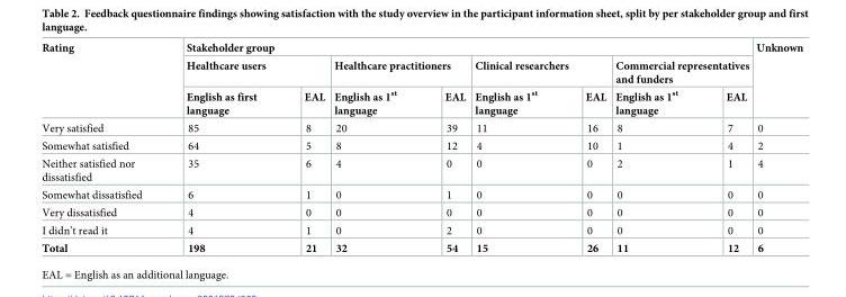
<table><thead><tr><td rowspan="3">Rating</td><td colspan="8">Stakeholder group</td><td rowspan="3">Unknown</td></tr><tr><td colspan="2">Healthcare users</td><td colspan="2">Healthcare practitioners</td><td colspan="2">Clinical researchers</td><td colspan="2">Commercial representatives and funders</td></tr><tr><td>English as first language</td><td>EAL</td><td>English as 1<sup>st</sup> language</td><td>EAL</td><td>English as 1<sup>st</sup> language</td><td>EAL</td><td>English as 1<sup>st</sup> language</td><td>EAL</td></tr></thead><tbody><tr><td>Very satisfied</td><td>85</td><td>8</td><td>20</td><td>39</td><td>11</td><td>16</td><td>8</td><td>7</td><td>0</td></tr><tr><td>Somewhat satisfied</td><td>64</td><td>5</td><td>8</td><td>12</td><td>4</td><td>10</td><td>1</td><td>4</td><td>2</td></tr><tr><td>Neither satisfied nor dissatisfied</td><td>35</td><td>6</td><td>4</td><td>0</td><td>0</td><td>0</td><td>2</td><td>1</td><td>4</td></tr><tr><td>Somewhat dissatisfied</td><td>6</td><td>1</td><td>0</td><td>1</td><td>0</td><td>0</td><td>0</td><td>0</td><td>0</td></tr><tr><td>Very dissatisfied</td><td>4</td><td>0</td><td>0</td><td>0</td><td>0</td><td>0</td><td>0</td><td>0</td><td>0</td></tr><tr><td>I didn’t read it</td><td>4</td><td>1</td><td>0</td><td>2</td><td>0</td><td>0</td><td>0</td><td>0</td><td>0</td></tr><tr><td>Total</td><td>198</td><td>21</td><td>32</td><td>54</td><td>15</td><td>26</td><td>11</td><td>12</td><td>6</td></tr></tbody></table>